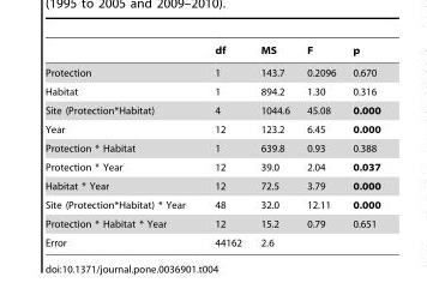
<table><thead><tr><td></td><td>df</td><td>MS</td><td>F</td><td>p</td></tr></thead><tbody><tr><td>Protection</td><td>1</td><td>143.7</td><td>0.2096</td><td>0.670</td></tr><tr><td>Habitat</td><td>1</td><td>894.2</td><td>1.30</td><td>0.316</td></tr><tr><td>Site (Protection*Habitat)</td><td>4</td><td>1044.6</td><td>45.08</td><td>0.000</td></tr><tr><td>Year</td><td>12</td><td>123.2</td><td>6.45</td><td>0.000</td></tr><tr><td>Protection * Habitat</td><td>1</td><td>639.8</td><td>0.93</td><td>0.388</td></tr><tr><td>Protection * Year</td><td>12</td><td>39.0</td><td>2.04</td><td>0.037</td></tr><tr><td>Habitat * Year</td><td>12</td><td>72.5</td><td>3.79</td><td>0.000</td></tr><tr><td>Site (Protection*Habitat) * Year</td><td>48</td><td>32.0</td><td>12.11</td><td>0.000</td></tr><tr><td>Protection * Habitat * Year</td><td>12</td><td>15.2</td><td>0.79</td><td>0.651</td></tr><tr><td>Error</td><td>44162</td><td>2.6</td><td></td><td></td></tr></tbody></table>